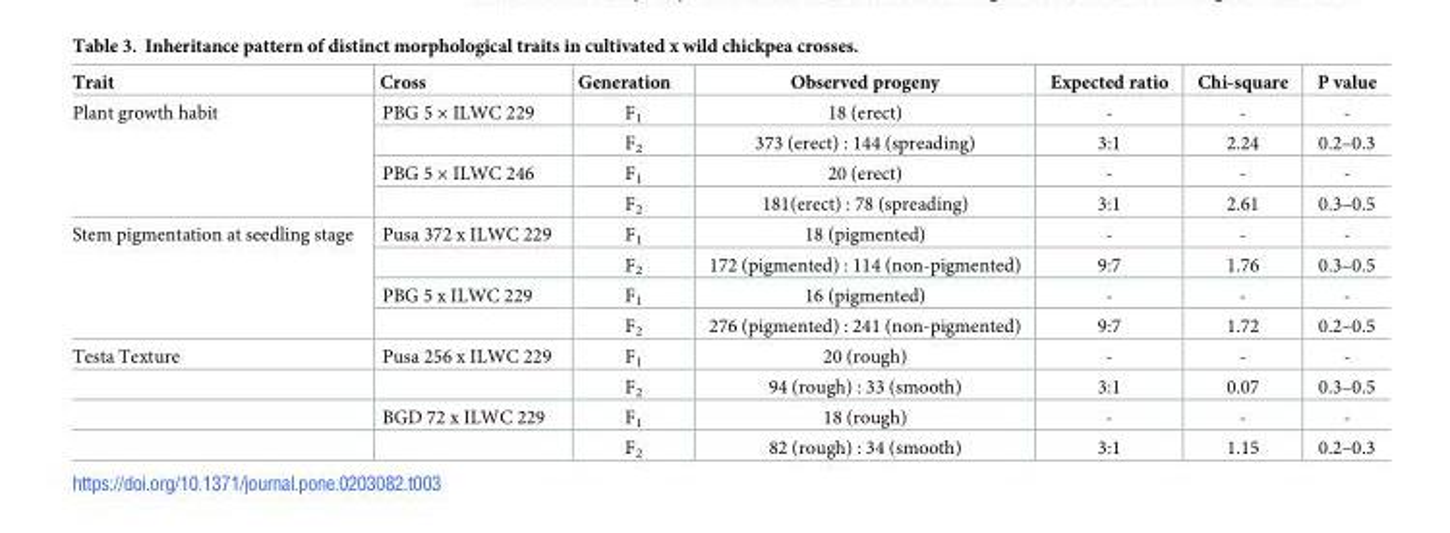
<table><thead><tr><td>Trait</td><td>Cross</td><td>Generation</td><td>Observed progeny</td><td>Expected ratio</td><td>Chi-square</td><td>P value</td></tr></thead><tbody><tr><td rowspan="4">Plant growth habit</td><td>PBG 5 × ILWC 229</td><td>F<sub>1</sub></td><td>18 (erect)</td><td>-</td><td>-</td><td>-</td></tr><tr><td></td><td>F<sub>2</sub></td><td>373 (erect) : 144 (spreading)</td><td>3:1</td><td>2.24</td><td>0.2–0.3</td></tr><tr><td>PBG 5 × ILWC 246</td><td>F<sub>1</sub></td><td>20 (erect)</td><td>-</td><td>-</td><td>-</td></tr><tr><td></td><td>F<sub>2</sub></td><td>181(erect) : 78 (spreading)</td><td>3:1</td><td>2.61</td><td>0.3–0.5</td></tr><tr><td rowspan="4">Stem pigmentation at seedling stage</td><td>Pusa 372 x ILWC 229</td><td>F<sub>1</sub></td><td>18 (pigmented)</td><td>-</td><td>-</td><td>-</td></tr><tr><td></td><td>F<sub>2</sub></td><td>172 (pigmented) : 114 (non-pigmented)</td><td>9:7</td><td>1.76</td><td>0.3–0.5</td></tr><tr><td>PBG 5 x ILWC 229</td><td>F<sub>1</sub></td><td>16 (pigmented)</td><td>-</td><td>-</td><td>-</td></tr><tr><td></td><td>F<sub>2</sub></td><td>276 (pigmented) : 241 (non-pigmented)</td><td>9:7</td><td>1.72</td><td>0.2–0.5</td></tr><tr><td rowspan="4">Testa Texture</td><td>Pusa 256 x ILWC 229</td><td>F<sub>1</sub></td><td>20 (rough)</td><td>-</td><td>-</td><td>-</td></tr><tr><td></td><td>F<sub>2</sub></td><td>94 (rough) : 33 (smooth)</td><td>3:1</td><td>0.07</td><td>0.3–0.5</td></tr><tr><td>BGD 72 x ILWC 229</td><td>F<sub>1</sub></td><td>18 (rough)</td><td>-</td><td>-</td><td>-</td></tr><tr><td></td><td>F<sub>2</sub></td><td>82 (rough) : 34 (smooth)</td><td>3:1</td><td>1.15</td><td>0.2–0.3</td></tr></tbody></table>